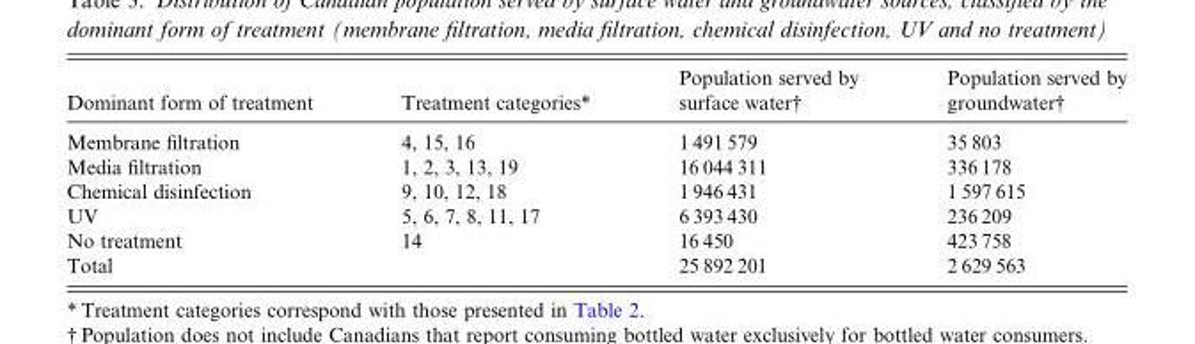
<table><thead><tr><td>Dominant form of treatment</td><td>Treatment categories*</td><td>Population served by surface water†</td><td>Population served by groundwater†</td></tr></thead><tbody><tr><td>Membrane filtration</td><td>4, 15, 16</td><td>1 491 579</td><td>35 803</td></tr><tr><td>Media filtration</td><td>1, 2, 3, 13, 19</td><td>16 044 311</td><td>336 178</td></tr><tr><td>Chemical disinfection</td><td>9, 10, 12, 18</td><td>1 946 431</td><td>1 597 615</td></tr><tr><td>UV</td><td>5, 6, 7, 8, 11, 17</td><td>6 393 430</td><td>236 209</td></tr><tr><td>No treatment</td><td>14</td><td>16 450</td><td>423 758</td></tr><tr><td colspan="2">Total</td><td>25 892 201</td><td>2 629 563</td></tr></tbody></table>